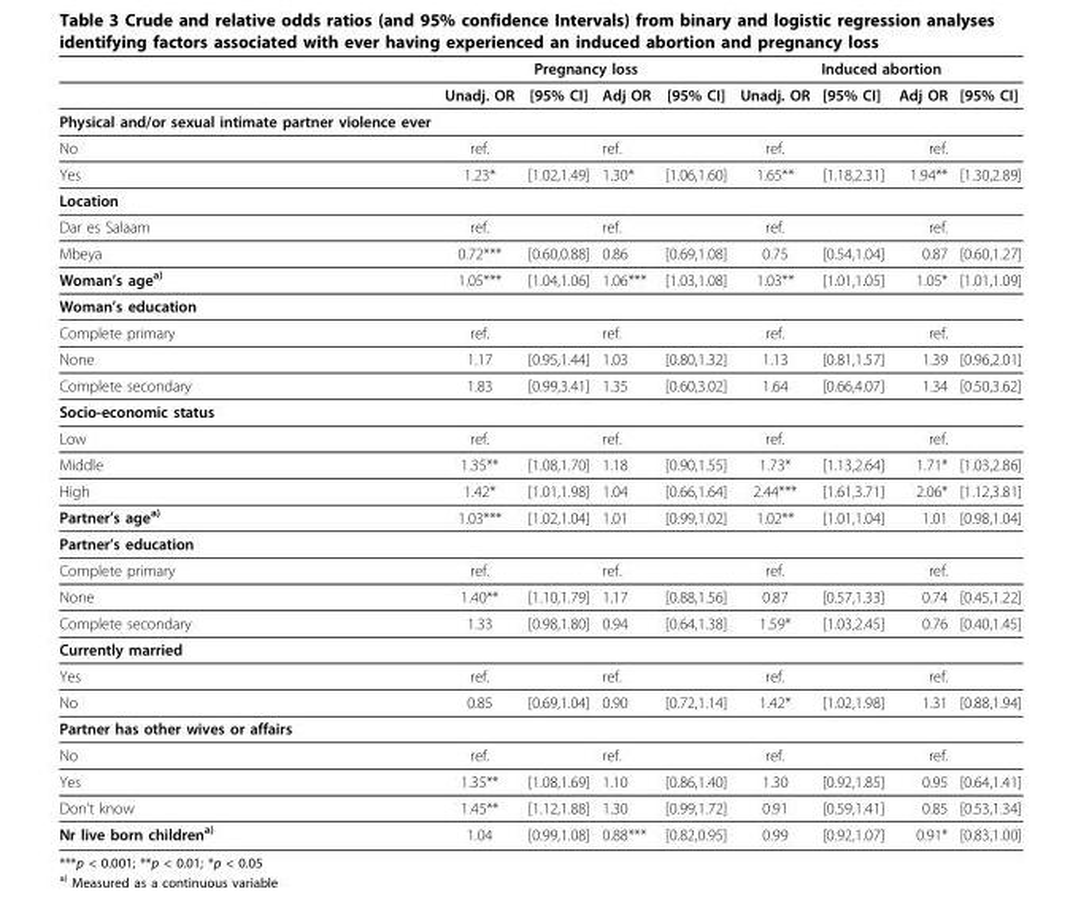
<table><thead><tr><td rowspan="2"></td><td colspan="4">Pregnancy loss</td><td colspan="4">Induced abortion</td></tr><tr><td>Unadj. OR</td><td>[95% CI]</td><td>Adj OR</td><td>[95% CI]</td><td>Unadj. OR</td><td>[95% CI]</td><td>Adj OR</td><td>[95% CI]</td></tr></thead><tbody><tr><td colspan="9">Physical and/or sexual intimate partner violence ever</td></tr><tr><td>No</td><td>ref.</td><td></td><td>ref.</td><td></td><td>ref.</td><td></td><td>ref.</td><td></td></tr><tr><td>Yes</td><td>1.23*</td><td>[1.02,1.49]</td><td>1.30*</td><td>[1.06,1.60]</td><td>1.65**</td><td>[1.18,2.31]</td><td>1.94**</td><td>[1.30,2.89]</td></tr><tr><td colspan="9">Location</td></tr><tr><td>Dar es Salaam</td><td>ref.</td><td></td><td>ref.</td><td></td><td>ref.</td><td></td><td>ref.</td><td></td></tr><tr><td>Mbeya</td><td>0.72***</td><td>[0.60,0.88]</td><td>0.86</td><td>[0.69,1.08]</td><td>0.75</td><td>[0.54,1.04]</td><td>0.87</td><td>[0.60,1.27]</td></tr><tr><td>Woman’s age<sup>a)</sup></td><td>1.05***</td><td>[1.04,1.06]</td><td>1.06***</td><td>[1.03,1.08]</td><td>1.03**</td><td>[1.01,1.05]</td><td>1.05*</td><td>[1.01,1.09]</td></tr><tr><td colspan="9">Woman’s education</td></tr><tr><td>Complete primary</td><td>ref.</td><td></td><td>ref.</td><td></td><td>ref.</td><td></td><td>ref.</td><td></td></tr><tr><td>None</td><td>1.17</td><td>[0.95,1.44]</td><td>1.03</td><td>[0.80,1.32]</td><td>1.13</td><td>[0.81,1.57]</td><td>1.39</td><td>[0.96,2.01]</td></tr><tr><td>Complete secondary</td><td>1.83</td><td>[0.99,3.41]</td><td>1.35</td><td>[0.60,3.02]</td><td>1.64</td><td>[0.66,4.07]</td><td>1.34</td><td>[0.50,3.62]</td></tr><tr><td colspan="9">Socio-economic status</td></tr><tr><td>Low</td><td>ref.</td><td></td><td>ref.</td><td></td><td>ref.</td><td></td><td>ref.</td><td></td></tr><tr><td>Middle</td><td>1.35**</td><td>[1.08,1.70]</td><td>1.18</td><td>[0.90,1.55]</td><td>1.73*</td><td>[1.13,2.64]</td><td>1.71*</td><td>[1.03,2.86]</td></tr><tr><td>High</td><td>1.42*</td><td>[1.01,1.98]</td><td>1.04</td><td>[0.66,1.64]</td><td>2.44***</td><td>[1.61,3.71]</td><td>2.06*</td><td>[1.12,3.81]</td></tr><tr><td>Partner’s age<sup>a)</sup></td><td>1.03***</td><td>[1.02,1.04]</td><td>1.01</td><td>[0.99,1.02]</td><td>1.02**</td><td>[1.01,1.04]</td><td>1.01</td><td>[0.98,1.04]</td></tr><tr><td colspan="9">Partner’s education</td></tr><tr><td>Complete primary</td><td>ref.</td><td></td><td>ref.</td><td></td><td>ref.</td><td></td><td>ref.</td><td></td></tr><tr><td>None</td><td>1.40**</td><td>[1.10,1.79]</td><td>1.17</td><td>[0.88,1.56]</td><td>0.87</td><td>[0.57,1.33]</td><td>0.74</td><td>[0.45,1.22]</td></tr><tr><td>Complete secondary</td><td>1.33</td><td>[0.98,1.80]</td><td>0.94</td><td>[0.64,1.38]</td><td>1.59*</td><td>[1.03,2.45]</td><td>0.76</td><td>[0.40,1.45]</td></tr><tr><td colspan="9">Currently married</td></tr><tr><td>Yes</td><td>ref.</td><td></td><td>ref.</td><td></td><td>ref.</td><td></td><td>ref.</td><td></td></tr><tr><td>No</td><td>0.85</td><td>[0.69,1.04]</td><td>0.90</td><td>[0.72,1.14]</td><td>1.42*</td><td>[1.02,1.98]</td><td>1.31</td><td>[0.88,1.94]</td></tr><tr><td colspan="9">Partner has other wives or affairs</td></tr><tr><td>No</td><td>ref.</td><td></td><td>ref.</td><td></td><td>ref.</td><td></td><td>ref.</td><td></td></tr><tr><td>Yes</td><td>1.35**</td><td>[1.08,1.69]</td><td>1.10</td><td>[0.86,1.40]</td><td>1.30</td><td>[0.92,1.85]</td><td>0.95</td><td>[0.64,1.41]</td></tr><tr><td>Don’t know</td><td>1.45**</td><td>[1.12,1.88]</td><td>1.30</td><td>[0.99,1.72]</td><td>0.91</td><td>[0.59,1.41]</td><td>0.85</td><td>[0.53,1.34]</td></tr><tr><td>Nr live born children<sup>a)</sup></td><td>1.04</td><td>[0.99,1.08]</td><td>0.88***</td><td>[0.82,0.95]</td><td>0.99</td><td>[0.92,1.07]</td><td>0.91*</td><td>[0.83,1.00]</td></tr></tbody></table>